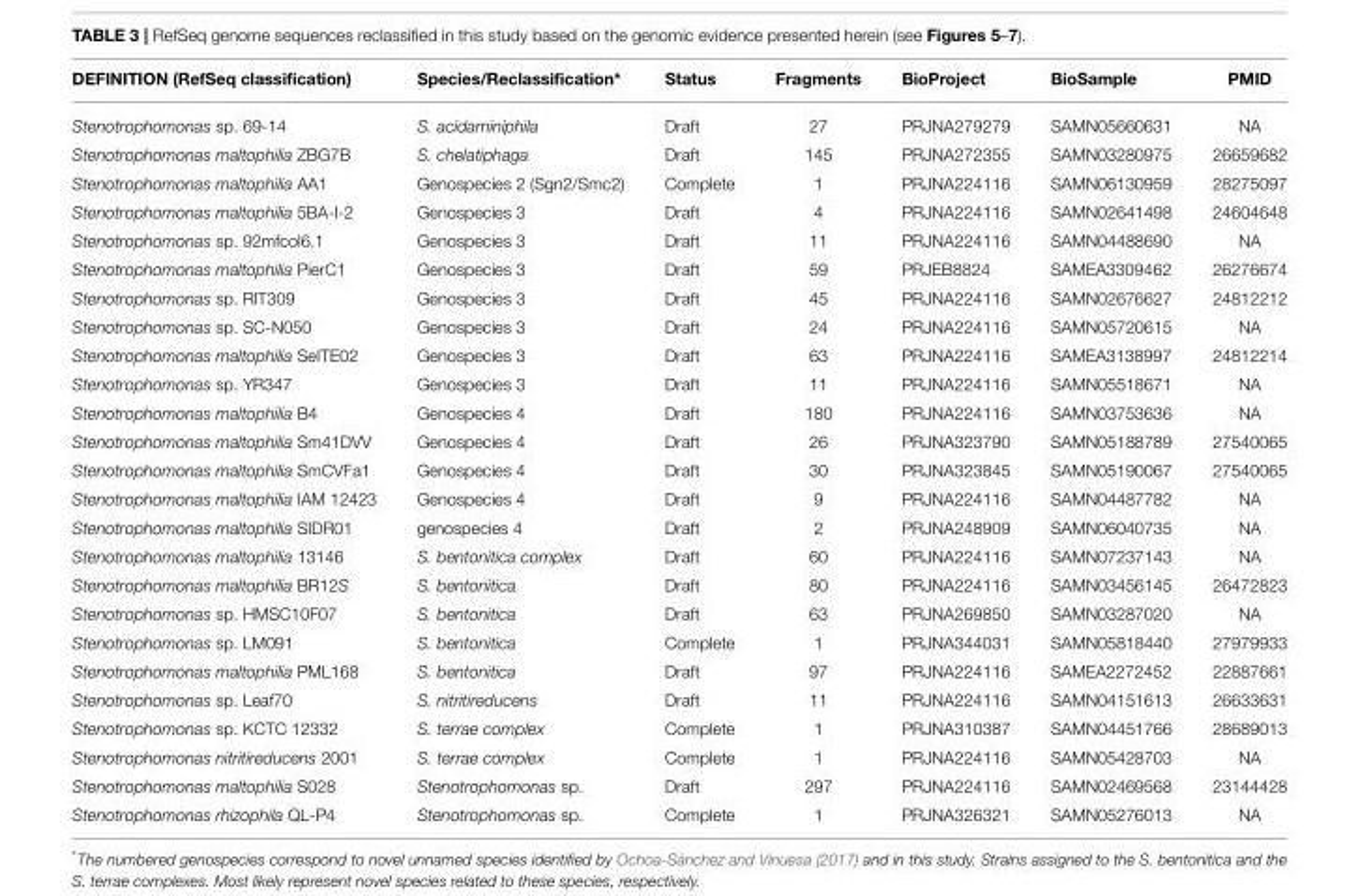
<table><thead><tr><td>DEFINITION (RefSeq classification)</td><td>Species/Reclassification*</td><td>Status</td><td>Fragments</td><td>BioProject</td><td>BioSample</td><td>PMID</td></tr></thead><tbody><tr><td>Stenotrophomonas sp. 69-14</td><td>S. acidaminiphila</td><td>Draft</td><td>27</td><td>PRJNA279279</td><td>SAMN05660631</td><td>NA</td></tr><tr><td>Stenotrophomonas maltophilia ZBG7B</td><td>S. chelatiphaga</td><td>Draft</td><td>145</td><td>PRJNA272355</td><td>SAMN03280975</td><td>26659682</td></tr><tr><td>Stenotrophomonas maltophilia AA1</td><td>Genospecies 2 (Sgn2/Smc2)</td><td>Complete</td><td>1</td><td>PRJNA224116</td><td>SAMN06130959</td><td>28275097</td></tr><tr><td>Stenotrophomonas maltophilia 5BA-I-2</td><td>Genospecies 3</td><td>Draft</td><td>4</td><td>PRJNA224116</td><td>SAMN02641498</td><td>24604648</td></tr><tr><td>Stenotrophomonas sp. 92mfcol6.1</td><td>Genospecies 3</td><td>Draft</td><td>11</td><td>PRJNA224116</td><td>SAMN04488690</td><td>NA</td></tr><tr><td>Stenotrophomonas maltophilia PierC1</td><td>Genospecies 3</td><td>Draft</td><td>59</td><td>PRJEB8824</td><td>SAMEA3309462</td><td>26276674</td></tr><tr><td>Stenotrophomonas sp. RIT309</td><td>Genospecies 3</td><td>Draft</td><td>45</td><td>PRJNA224116</td><td>SAMN02676627</td><td>24812212</td></tr><tr><td>Stenotrophomonas sp. SC-N050</td><td>Genospecies 3</td><td>Draft</td><td>24</td><td>PRJNA224116</td><td>SAMN05720615</td><td>NA</td></tr><tr><td>Stenotrophomonas maltophilia SeITE02</td><td>Genospecies 3</td><td>Draft</td><td>63</td><td>PRJNA224116</td><td>SAMEA3138997</td><td>24812214</td></tr><tr><td>Stenotrophomonas sp. YR347</td><td>Genospecies 3</td><td>Draft</td><td>11</td><td>PRJNA224116</td><td>SAMN05518671</td><td>NA</td></tr><tr><td>Stenotrophomonas maltophilia B4</td><td>Genospecies 4</td><td>Draft</td><td>180</td><td>PRJNA224116</td><td>SAMN03753636</td><td>NA</td></tr><tr><td>Stenotrophomonas maltophilia Sm41DVV</td><td>Genospecies 4</td><td>Draft</td><td>26</td><td>PRJNA323790</td><td>SAMN05188789</td><td>27540065</td></tr><tr><td>Stenotrophomonas maltophilia SmCVFa1</td><td>Genospecies 4</td><td>Draft</td><td>30</td><td>PRJNA323845</td><td>SAMN05190067</td><td>27540065</td></tr><tr><td>Stenotrophomonas maltophilia IAM 12423</td><td>Genospecies 4</td><td>Draft</td><td>9</td><td>PRJNA224116</td><td>SAMN04487782</td><td>NA</td></tr><tr><td>Stenotrophomonas maltophilia SIDR01</td><td>genospecies 4</td><td>Draft</td><td>2</td><td>PRJNA248909</td><td>SAMN06040735</td><td>NA</td></tr><tr><td>Stenotrophomonas maltophilia 13146</td><td>S. bentonitica complex</td><td>Draft</td><td>60</td><td>PRJNA224116</td><td>SAMN07237143</td><td>NA</td></tr><tr><td>Stenotrophomonas maltophilia BR12S</td><td>S. bentonitica</td><td>Draft</td><td>80</td><td>PRJNA224116</td><td>SAMN03456145</td><td>26472823</td></tr><tr><td>Stenotrophomonas sp. HMSC10F07</td><td>S. bentonitica</td><td>Draft</td><td>63</td><td>PRJNA269850</td><td>SAMN03287020</td><td>NA</td></tr><tr><td>Stenotrophomonas sp. LM091</td><td>S. bentonitica</td><td>Complete</td><td>1</td><td>PRJNA344031</td><td>SAMN05818440</td><td>27979933</td></tr><tr><td>Stenotrophomonas maltophilia PML168</td><td>S. bentonitica</td><td>Draft</td><td>97</td><td>PRJNA224116</td><td>SAMEA2272452</td><td>22887661</td></tr><tr><td>Stenotrophomonas sp. Leaf70</td><td>S. nitritireducens</td><td>Draft</td><td>11</td><td>PRJNA224116</td><td>SAMN04151613</td><td>26633631</td></tr><tr><td>Stenotrophomonas sp. KCTC 12332</td><td>S. terrae complex</td><td>Complete</td><td>1</td><td>PRJNA310387</td><td>SAMN04451766</td><td>28689013</td></tr><tr><td>Stenotrophomonas nitritireducens 2001</td><td>S. terrae complex</td><td>Complete</td><td>1</td><td>PRJNA224116</td><td>SAMN05428703</td><td>NA</td></tr><tr><td>Stenotrophomonas maltophilia S028</td><td>Stenotrophomonas sp.</td><td>Draft</td><td>297</td><td>PRJNA224116</td><td>SAMN02469568</td><td>23144428</td></tr><tr><td>Stenotrophomonas rhizophila QL-P4</td><td>Stenotrophomonas sp.</td><td>Complete</td><td>1</td><td>PRJNA326321</td><td>SAMN05276013</td><td>NA</td></tr></tbody></table>